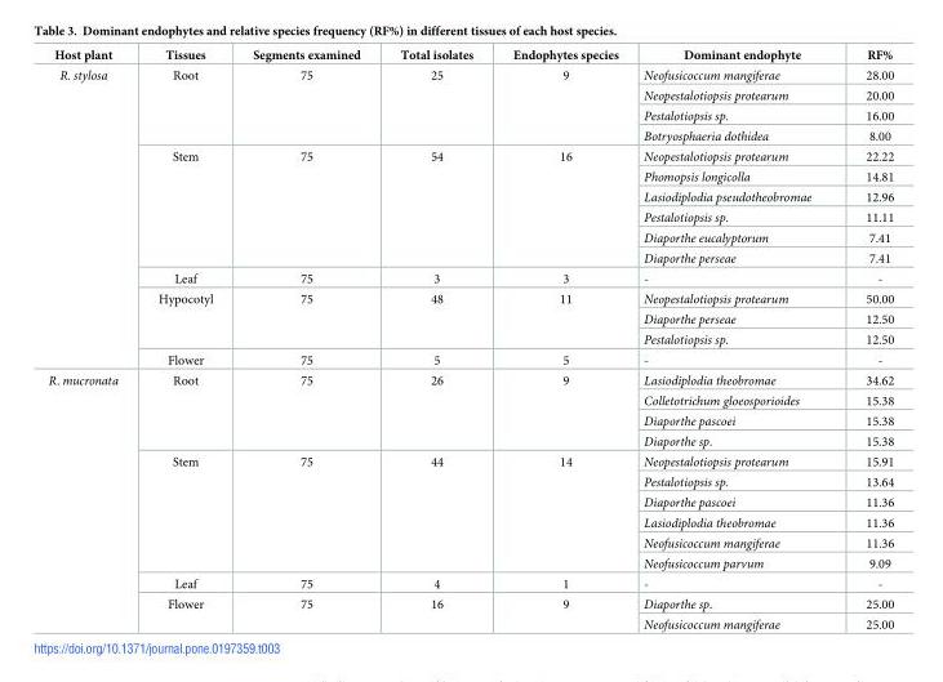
<table><thead><tr><td>Host plant</td><td>Tissues</td><td>Segments examined</td><td>Total isolates</td><td>Endophytes species</td><td>Dominant endophyte</td><td>RF%</td></tr></thead><tbody><tr><td rowspan="15">R. stylosa</td><td rowspan="4">Root</td><td rowspan="4">75</td><td rowspan="4">25</td><td rowspan="4">9</td><td>Neofusicoccum mangiferae</td><td>28.00</td></tr><tr><td>Neopestalotiopsis protearum</td><td>20.00</td></tr><tr><td>Pestalotiopsis sp.</td><td>16.00</td></tr><tr><td>Botryosphaeria dothidea</td><td>8.00</td></tr><tr><td rowspan="6">Stem</td><td rowspan="6">75</td><td rowspan="6">54</td><td rowspan="6">16</td><td>Neopestalotiopsis protearum</td><td>22.22</td></tr><tr><td>Phomopsis longicolla</td><td>14.81</td></tr><tr><td>Lasiodiplodia pseudotheobromae</td><td>12.96</td></tr><tr><td>Pestalotiopsis sp.</td><td>11.11</td></tr><tr><td>Diaporthe eucalyptorum</td><td>7.41</td></tr><tr><td>Diaporthe perseae</td><td>7.41</td></tr><tr><td>Leaf</td><td>75</td><td>3</td><td>3</td><td>-</td><td>-</td></tr><tr><td rowspan="3">Hypocotyl</td><td rowspan="3">75</td><td rowspan="3">48</td><td rowspan="3">11</td><td>Neopestalotiopsis protearum</td><td>50.00</td></tr><tr><td>Diaporthe perseae</td><td>12.50</td></tr><tr><td>Pestalotiopsis sp.</td><td>12.50</td></tr><tr><td>Flower</td><td>75</td><td>5</td><td>5</td><td>-</td><td>-</td></tr><tr><td rowspan="13">R. mucronata</td><td rowspan="4">Root</td><td rowspan="4">75</td><td rowspan="4">26</td><td rowspan="4">9</td><td>Lasiodiplodia theobromae</td><td>34.62</td></tr><tr><td>Colletotrichum gloeosporioides</td><td>15.38</td></tr><tr><td>Diaporthe pascoei</td><td>15.38</td></tr><tr><td>Diaporthe sp.</td><td>15.38</td></tr><tr><td rowspan="6">Stem</td><td rowspan="6">75</td><td rowspan="6">44</td><td rowspan="6">14</td><td>Neopestalotiopsis protearum</td><td>15.91</td></tr><tr><td>Pestalotiopsis sp.</td><td>13.64</td></tr><tr><td>Diaporthe pascoei</td><td>11.36</td></tr><tr><td>Lasiodiplodia theobromae</td><td>11.36</td></tr><tr><td>Neofusicoccum mangiferae</td><td>11.36</td></tr><tr><td>Neofusicoccum parvum</td><td>9.09</td></tr><tr><td>Leaf</td><td>75</td><td>4</td><td>1</td><td>-</td><td>-</td></tr><tr><td rowspan="2">Flower</td><td rowspan="2">75</td><td rowspan="2">16</td><td rowspan="2">9</td><td>Diaporthe sp.</td><td>25.00</td></tr><tr><td>Neofusicoccum mangiferae</td><td>25.00</td></tr></tbody></table>